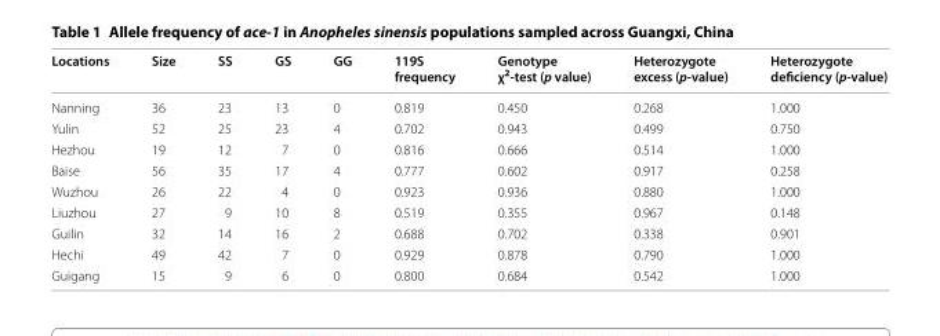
<table><thead><tr><td>Locations</td><td>Size</td><td>SS</td><td>GS</td><td>GG</td><td>119S frequency</td><td>Genotype χ<sup>2</sup>‑test (p value)</td><td>Heterozygote excess (p‑value)</td><td>Heterozygote deficiency (p‑value)</td></tr></thead><tbody><tr><td>Nanning</td><td>36</td><td>23</td><td>13</td><td>0</td><td>0.819</td><td>0.450</td><td>0.268</td><td>1.000</td></tr><tr><td>Yulin</td><td>52</td><td>25</td><td>23</td><td>4</td><td>0.702</td><td>0.943</td><td>0.499</td><td>0.750</td></tr><tr><td>Hezhou</td><td>19</td><td>12</td><td>7</td><td>0</td><td>0.816</td><td>0.666</td><td>0.514</td><td>1.000</td></tr><tr><td>Baise</td><td>56</td><td>35</td><td>17</td><td>4</td><td>0.777</td><td>0.602</td><td>0.917</td><td>0.258</td></tr><tr><td>Wuzhou</td><td>26</td><td>22</td><td>4</td><td>0</td><td>0.923</td><td>0.936</td><td>0.880</td><td>1.000</td></tr><tr><td>Liuzhou</td><td>27</td><td>9</td><td>10</td><td>8</td><td>0.519</td><td>0.355</td><td>0.967</td><td>0.148</td></tr><tr><td>Guilin</td><td>32</td><td>14</td><td>16</td><td>2</td><td>0.688</td><td>0.702</td><td>0.338</td><td>0.901</td></tr><tr><td>Hechi</td><td>49</td><td>42</td><td>7</td><td>0</td><td>0.929</td><td>0.878</td><td>0.790</td><td>1.000</td></tr><tr><td>Guigang</td><td>15</td><td>9</td><td>6</td><td>0</td><td>0.800</td><td>0.684</td><td>0.542</td><td>1.000</td></tr></tbody></table>